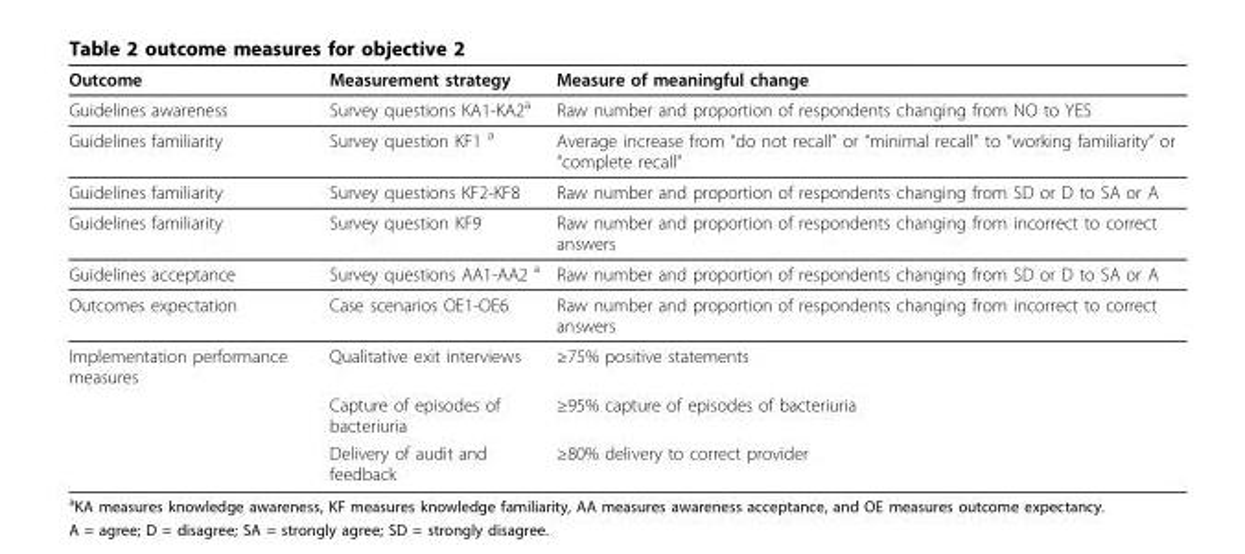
<table><thead><tr><td>Outcome</td><td>Measurement strategy</td><td>Measure of meaningful change</td></tr></thead><tbody><tr><td>Guidelines awareness</td><td>Survey questions KA1-KA2a</td><td>Raw number and proportion of respondents changing from NO to YES</td></tr><tr><td>Guidelines familiarity</td><td>Survey question KF1 a</td><td>Average increase from “do not recall” or “minimal recall” to “working familiarity” or “complete recall”</td></tr><tr><td>Guidelines familiarity</td><td>Survey questions KF2-KF8</td><td>Raw number and proportion of respondents changing from SD or D to SA or A</td></tr><tr><td>Guidelines familiarity</td><td>Survey question KF9</td><td>Raw number and proportion of respondents changing from incorrect to correct answers</td></tr><tr><td>Guidelines acceptance</td><td>Survey questions AA1-AA2 <sup>a</sup></td><td>Raw number and proportion of respondents changing from SD or D to SA or A</td></tr><tr><td>Outcomes expectation</td><td>Case scenarios OE1-OE6</td><td>Raw number and proportion of respondents changing from incorrect to correct answers</td></tr><tr><td rowspan="3">Implementation performance measures</td><td>Qualitative exit interviews</td><td>≥75% positive statements</td></tr><tr><td>Capture of episodes of bacteriuria</td><td>≥95% capture of episodes of bacteriuria</td></tr><tr><td>Delivery of audit and feedback</td><td>≥80% delivery to correct provider</td></tr></tbody></table>